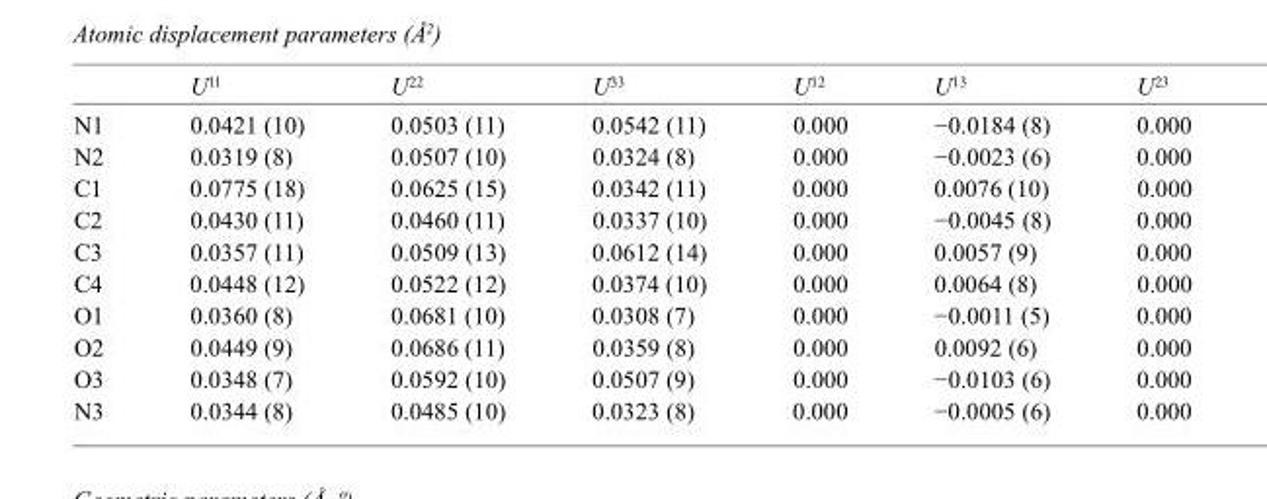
<table><thead><tr><td></td><td>U<sup>11</sup></td><td>U<sup>22</sup></td><td>U<sup>33</sup></td><td>U<sup>12</sup></td><td>U<sup>13</sup></td><td>U<sup>23</sup></td></tr></thead><tbody><tr><td>N1</td><td>0.0421 (10)</td><td>0.0503 (11)</td><td>0.0542 (11)</td><td>0.000</td><td>−0.0184 (8)</td><td>0.000</td></tr><tr><td>N2</td><td>0.0319 (8)</td><td>0.0507 (10)</td><td>0.0324 (8)</td><td>0.000</td><td>−0.0023 (6)</td><td>0.000</td></tr><tr><td>C1</td><td>0.0775 (18)</td><td>0.0625 (15)</td><td>0.0342 (11)</td><td>0.000</td><td>0.0076 (10)</td><td>0.000</td></tr><tr><td>C2</td><td>0.0430 (11)</td><td>0.0460 (11)</td><td>0.0337 (10)</td><td>0.000</td><td>−0.0045 (8)</td><td>0.000</td></tr><tr><td>C3</td><td>0.0357 (11)</td><td>0.0509 (13)</td><td>0.0612 (14)</td><td>0.000</td><td>0.0057 (9)</td><td>0.000</td></tr><tr><td>C4</td><td>0.0448 (12)</td><td>0.0522 (12)</td><td>0.0374 (10)</td><td>0.000</td><td>0.0064 (8)</td><td>0.000</td></tr><tr><td>O1</td><td>0.0360 (8)</td><td>0.0681 (10)</td><td>0.0308 (7)</td><td>0.000</td><td>−0.0011 (5)</td><td>0.000</td></tr><tr><td>O2</td><td>0.0449 (9)</td><td>0.0686 (11)</td><td>0.0359 (8)</td><td>0.000</td><td>0.0092 (6)</td><td>0.000</td></tr><tr><td>O3</td><td>0.0348 (7)</td><td>0.0592 (10)</td><td>0.0507 (9)</td><td>0.000</td><td>−0.0103 (6)</td><td>0.000</td></tr><tr><td>N3</td><td>0.0344 (8)</td><td>0.0485 (10)</td><td>0.0323 (8)</td><td>0.000</td><td>−0.0005 (6)</td><td>0.000</td></tr></tbody></table>